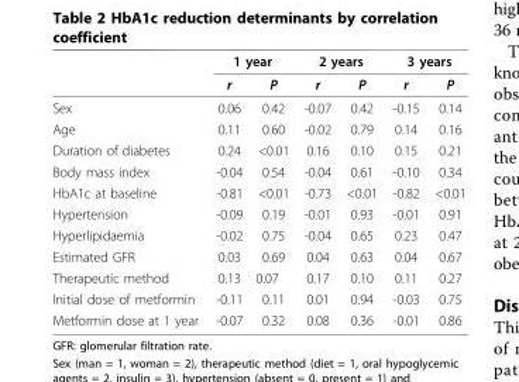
<table><thead><tr><td rowspan="2"></td><td colspan="2">1 year</td><td colspan="2">2 years</td><td colspan="2">3 years</td></tr><tr><td>r</td><td>P</td><td>r</td><td>P</td><td>r</td><td>P</td></tr></thead><tbody><tr><td>Sex</td><td>0.06</td><td>0.42</td><td>-0.07</td><td>0.42</td><td>-0.15</td><td>0.14</td></tr><tr><td>Age</td><td>0.11</td><td>0.60</td><td>-0.02</td><td>0.79</td><td>0.14</td><td>0.16</td></tr><tr><td>Duration of diabetes</td><td>0.24</td><td>&lt;0.01</td><td>0.16</td><td>0.10</td><td>0.15</td><td>0.21</td></tr><tr><td>Body mass index</td><td>-0.04</td><td>0.54</td><td>-0.04</td><td>0.61</td><td>-0.10</td><td>0.34</td></tr><tr><td>HbA1c at baseline</td><td>-0.81</td><td>&lt;0.01</td><td>-0.73</td><td>&lt;0.01</td><td>-0.82</td><td>&lt;0.01</td></tr><tr><td>Hypertension</td><td>-0.09</td><td>0.19</td><td>-0.01</td><td>0.93</td><td>-0.01</td><td>0.91</td></tr><tr><td>Hyperlipidaemia</td><td>-0.02</td><td>0.75</td><td>-0.04</td><td>0.65</td><td>0.23</td><td>0.47</td></tr><tr><td>Estimated GFR</td><td>0.03</td><td>0.69</td><td>0.04</td><td>0.63</td><td>0.04</td><td>0.67</td></tr><tr><td>Therapeutic method</td><td>0.13</td><td>0.07</td><td>0.17</td><td>0.10</td><td>0.11</td><td>0.27</td></tr><tr><td>Initial dose of metformin</td><td>-0.11</td><td>0.11</td><td>0.01</td><td>0.94</td><td>-0.03</td><td>0.75</td></tr><tr><td>Metformin dose at 1 year</td><td>-0.07</td><td>0.32</td><td>0.08</td><td>0.36</td><td>-0.01</td><td>0.86</td></tr></tbody></table>